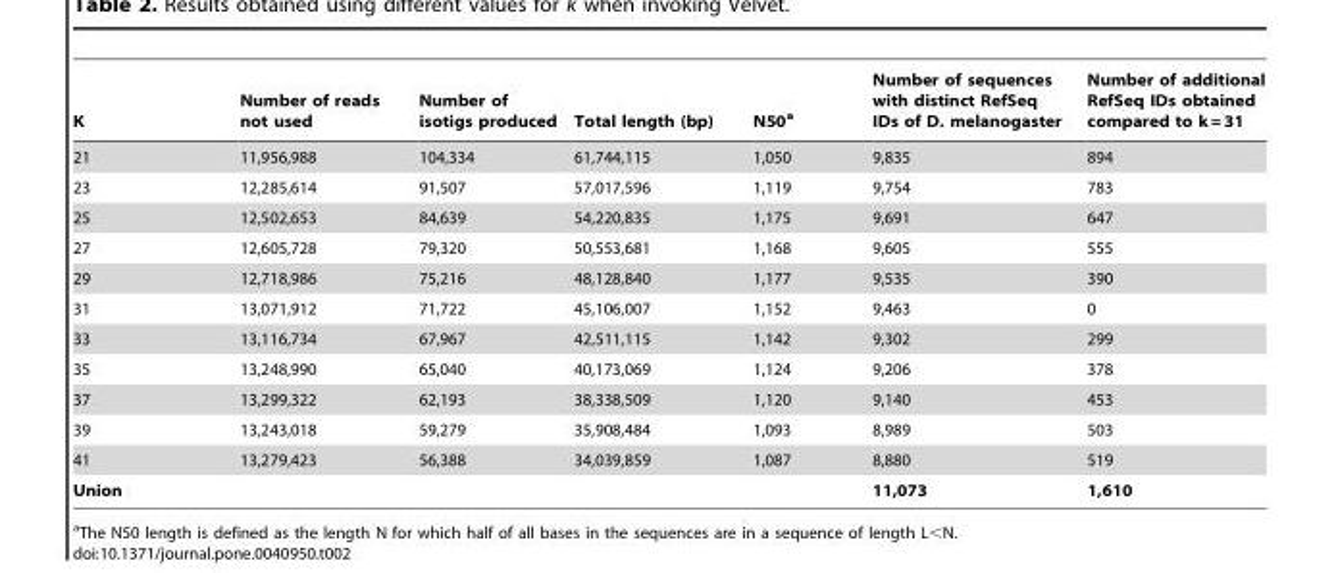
<table><thead><tr><td>K</td><td>Number of reads not used</td><td>Number of isotigs produced</td><td>Total length (bp)</td><td>N50<sup>a</sup></td><td>Number of sequences with distinct RefSeq IDs of D. melanogaster</td><td>Number of additional RefSeq IDs obtained compared to k = 31</td></tr></thead><tbody><tr><td>21</td><td>11,956,988</td><td>104,334</td><td>61,744,115</td><td>1,050</td><td>9,835</td><td>894</td></tr><tr><td>23</td><td>12,285,614</td><td>91,507</td><td>57,017,596</td><td>1,119</td><td>9,754</td><td>783</td></tr><tr><td>25</td><td>12,502,653</td><td>84,639</td><td>54,220,835</td><td>1,175</td><td>9,691</td><td>647</td></tr><tr><td>27</td><td>12,605,728</td><td>79,320</td><td>50,553,681</td><td>1,168</td><td>9,605</td><td>555</td></tr><tr><td>29</td><td>12,718,986</td><td>75,216</td><td>48,128,840</td><td>1,177</td><td>9,535</td><td>390</td></tr><tr><td>31</td><td>13,071,912</td><td>71,722</td><td>45,106,007</td><td>1,152</td><td>9,463</td><td>0</td></tr><tr><td>33</td><td>13,116,734</td><td>67,967</td><td>42,511,115</td><td>1,142</td><td>9,302</td><td>299</td></tr><tr><td>35</td><td>13,248,990</td><td>65,040</td><td>40,173,069</td><td>1,124</td><td>9,206</td><td>378</td></tr><tr><td>37</td><td>13,299,322</td><td>62,193</td><td>38,338,509</td><td>1,120</td><td>9,140</td><td>453</td></tr><tr><td>39</td><td>13,243,018</td><td>59,279</td><td>35,908,484</td><td>1,093</td><td>8,989</td><td>503</td></tr><tr><td>41</td><td>13,279,423</td><td>56,388</td><td>34,039,859</td><td>1,087</td><td>8,880</td><td>519</td></tr><tr><td>Union</td><td></td><td></td><td></td><td></td><td>11,073</td><td>1,610</td></tr></tbody></table>